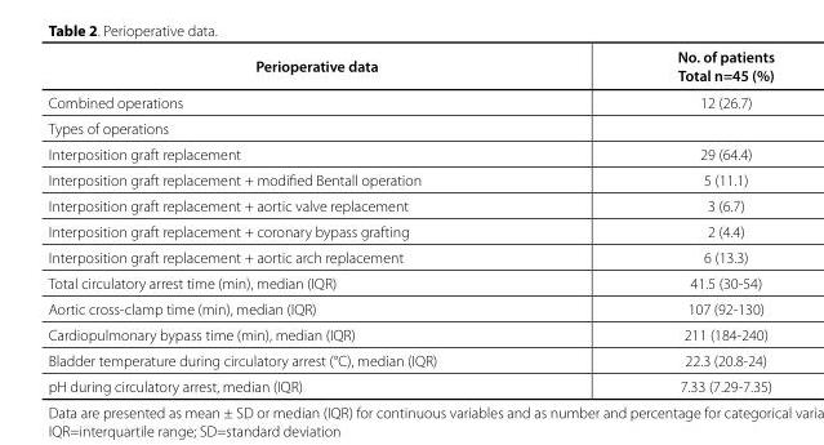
<table><thead><tr><td>Perioperative data</td><td>No. of patients Total n=45 (%)</td></tr></thead><tbody><tr><td>Combined operations</td><td>12 (26.7)</td></tr><tr><td colspan="2">Types of operations</td></tr><tr><td>Interposition graft replacement</td><td>29 (64.4)</td></tr><tr><td>Interposition graft replacement + modified Bentall operation</td><td>5 (11.1)</td></tr><tr><td>Interposition graft replacement + aortic valve replacement</td><td>3 (6.7)</td></tr><tr><td>Interposition graft replacement + coronary bypass grafting</td><td>2 (4.4)</td></tr><tr><td>Interposition graft replacement + aortic arch replacement</td><td>6 (13.3)</td></tr><tr><td>Total circulatory arrest time (min), median (IQR)</td><td>41.5 (30-54)</td></tr><tr><td>Aortic cross-clamp time (min), median (IQR)</td><td>107 (92-130)</td></tr><tr><td>Cardiopulmonary bypass time (min), median (IQR)</td><td>211 (184-240)</td></tr><tr><td>Bladder temperature during circulatory arrest (°C), median (IQR)</td><td>22.3 (20.8-24)</td></tr><tr><td>pH during circulatory arrest, median (IQR)</td><td>7.33 (7.29-7.35)</td></tr></tbody></table>